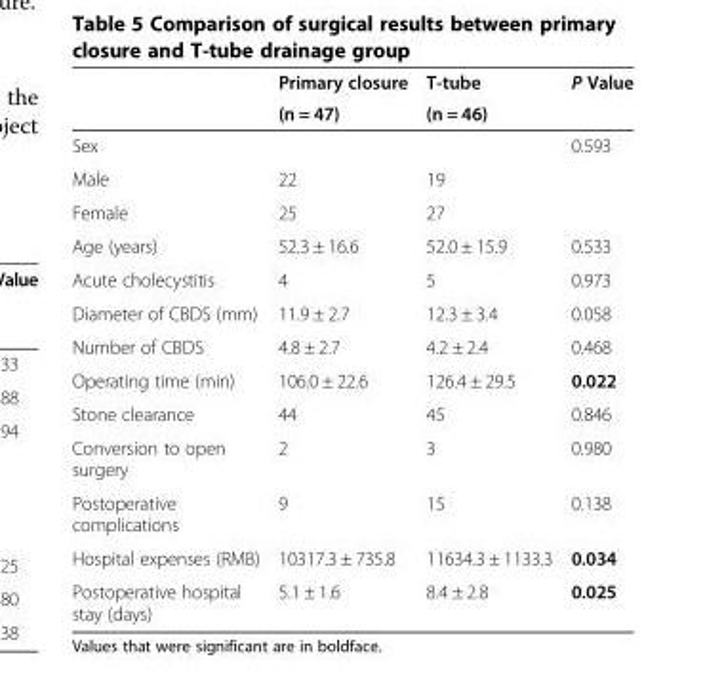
<table><thead><tr><td rowspan="2"></td><td rowspan="2">Primary closure (n = 47)</td><td rowspan="2">T-tube (n = 46)</td><td rowspan="2">P Value</td></tr><tr></tr></thead><tbody><tr><td>Sex</td><td></td><td></td><td>0.593</td></tr><tr><td>Male</td><td>22</td><td>19</td><td></td></tr><tr><td>Female</td><td>25</td><td>27</td><td></td></tr><tr><td>Age (years)</td><td>52.3 ± 16.6</td><td>52.0 ± 15.9</td><td>0.533</td></tr><tr><td>Acute cholecystitis</td><td>4</td><td>5</td><td>0.973</td></tr><tr><td>Diameter of CBDS (mm)</td><td>11.9 ± 2.7</td><td>12.3 ± 3.4</td><td>0.058</td></tr><tr><td>Number of CBDS</td><td>4.8 ± 2.7</td><td>4.2 ± 2.4</td><td>0.468</td></tr><tr><td>Operating time (min)</td><td>106.0 ± 22.6</td><td>126.4 ± 29.5</td><td>0.022</td></tr><tr><td>Stone clearance</td><td>44</td><td>45</td><td>0.846</td></tr><tr><td>Conversion to open surgery</td><td>2</td><td>3</td><td>0.980</td></tr><tr><td>Postoperative complications</td><td>9</td><td>15</td><td>0.138</td></tr><tr><td>Hospital expenses (RMB)</td><td>10317.3 ± 735.8</td><td>11634.3 ± 1133.3</td><td>0.034</td></tr><tr><td>Postoperative hospital stay (days)</td><td>5.1 ± 1.6</td><td>8.4 ± 2.8</td><td>0.025</td></tr></tbody></table>